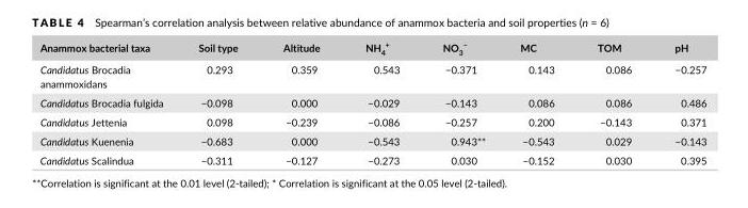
<table><thead><tr><td>Anammox bacterial taxa</td><td>Soil type</td><td>Altitude</td><td>NH<sub>4</sub> <sup>+</sup></td><td>NO<sub>3</sub> <sup>−</sup></td><td>MC</td><td>TOM</td><td>pH</td></tr></thead><tbody><tr><td>Candidatus Brocadia anammoxidans</td><td>0.293</td><td>0.359</td><td>0.543</td><td>−0.371</td><td>0.143</td><td>0.086</td><td>−0.257</td></tr><tr><td>Candidatus Brocadia fulgida</td><td>−0.098</td><td>0.000</td><td>−0.029</td><td>−0.143</td><td>0.086</td><td>0.086</td><td>0.486</td></tr><tr><td>Candidatus Jettenia</td><td>0.098</td><td>−0.239</td><td>−0.086</td><td>−0.257</td><td>0.200</td><td>−0.143</td><td>0.371</td></tr><tr><td>Candidatus Kuenenia</td><td>−0.683</td><td>0.000</td><td>−0.543</td><td>0.943**</td><td>−0.543</td><td>0.029</td><td>−0.143</td></tr><tr><td>Candidatus Scalindua</td><td>−0.311</td><td>−0.127</td><td>−0.273</td><td>0.030</td><td>−0.152</td><td>0.030</td><td>0.395</td></tr></tbody></table>